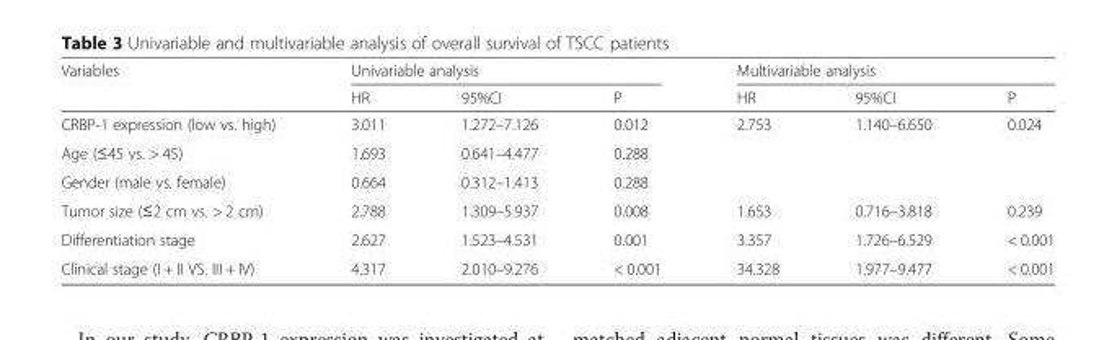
<table><thead><tr><td rowspan="2">Variables</td><td colspan="3">Univariable analysis</td><td colspan="3">Multivariable analysis</td></tr><tr><td>HR</td><td>95%CI</td><td>P</td><td>HR</td><td>95%CI</td><td>P</td></tr></thead><tbody><tr><td>CRBP-1 expression (low vs. high)</td><td>3.011</td><td>1.272–7.126</td><td>0.012</td><td>2.753</td><td>1.140–6.650</td><td>0.024</td></tr><tr><td>Age (≤45 vs. &gt; 45)</td><td>1.693</td><td>0.641–4.477</td><td>0.288</td><td rowspan="2" colspan="3"></td></tr><tr><td>Gender (male vs. female)</td><td>0.664</td><td>0.312–1.413</td><td>0.288</td></tr><tr><td>Tumor size (≤2 cm vs. &gt; 2 cm)</td><td>2.788</td><td>1.309–5.937</td><td>0.008</td><td>1.653</td><td>0.716–3.818</td><td>0.239</td></tr><tr><td>Differentiation stage</td><td>2.627</td><td>1.523–4.531</td><td>0.001</td><td>3.357</td><td>1.726–6.529</td><td>&lt; 0.001</td></tr><tr><td>Clinical stage (I + II VS. III + IV)</td><td>4.317</td><td>2.010–9.276</td><td>&lt; 0.001</td><td>34.328</td><td>1.977–9.477</td><td>&lt; 0.001</td></tr></tbody></table>